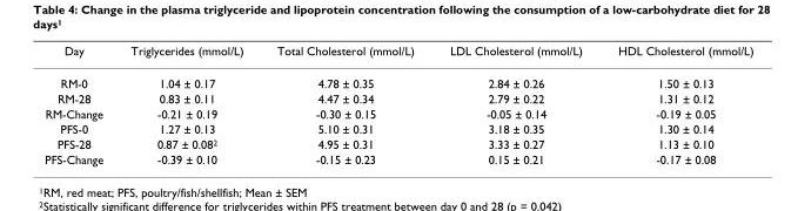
<table><thead><tr><td>Day</td><td>Triglycerides (mmol/L)</td><td>Total Cholesterol (mmol/L)</td><td>LDL Cholesterol (mmol/L)</td><td>HDL Cholesterol (mmol/L)</td></tr></thead><tbody><tr><td>RM-0</td><td>1.04 ± 0.17</td><td>4.78 ± 0.35</td><td>2.84 ± 0.26</td><td>1.50 ± 0.13</td></tr><tr><td>RM-28</td><td>0.83 ± 0.11</td><td>4.47 ± 0.34</td><td>2.79 ± 0.22</td><td>1.31 ± 0.12</td></tr><tr><td>RM-Change</td><td>-0.21 ± 0.19</td><td>-0.30 ± 0.15</td><td>-0.05 ± 0.14</td><td>-0.19 ± 0.05</td></tr><tr><td>PFS-0</td><td>1.27 ± 0.13</td><td>5.10 ± 0.31</td><td>3.18 ± 0.35</td><td>1.30 ± 0.14</td></tr><tr><td>PFS-28</td><td>0.87 ± 0.08<sup>2</sup></td><td>4.95 ± 0.31</td><td>3.33 ± 0.27</td><td>1.13 ± 0.10</td></tr><tr><td>PFS-Change</td><td>-0.39 ± 0.10</td><td>-0.15 ± 0.23</td><td>0.15 ± 0.21</td><td>-0.17 ± 0.08</td></tr></tbody></table>